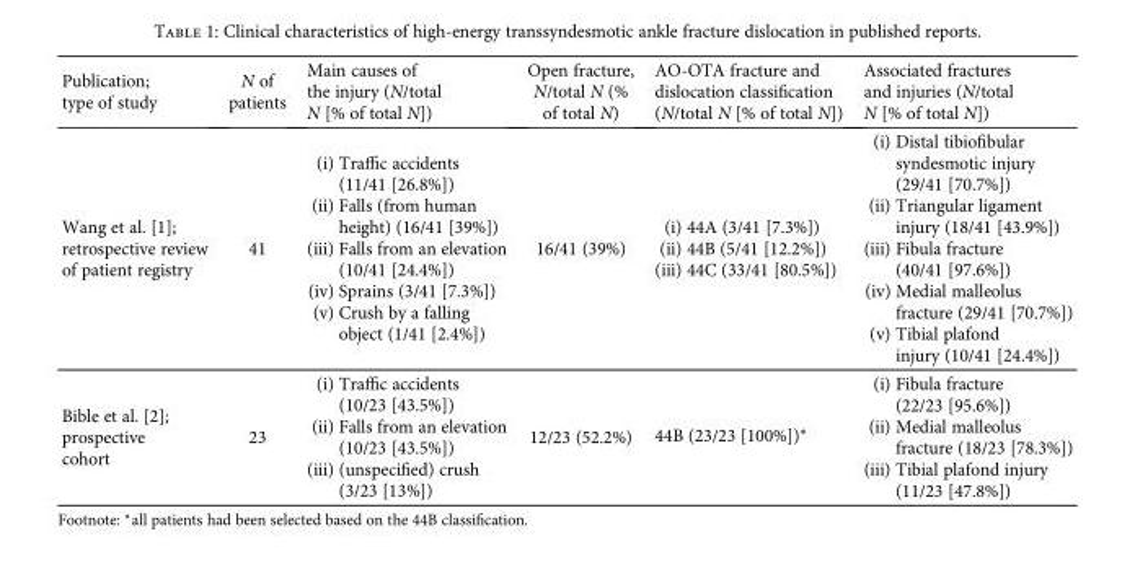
<table><thead><tr><td>Publication; type of study</td><td>N of patients</td><td>Main causes of the injury (N/total N [% of total N])</td><td>Open fracture, N/total N (% of total N)</td><td>AO-OTA fracture and dislocation classification (N/total N [% of total N])</td><td>Associated fractures and injuries (N/total N [% of total N])</td></tr></thead><tbody><tr><td>Wang et al. [1]; retrospective review of patient registry</td><td>41</td><td>(i) Traffic accidents (11/41 [26.8%]) (ii) Falls (from human height) (16/41 [39%]) (iii) Falls from an elevation (10/41 [24.4%]) (iv) Sprains (3/41 [7.3%]) (v) Crush by a falling object (1/41 [2.4%])</td><td>16/41 (39%)</td><td>(i) 44A (3/41 [7.3%]) (ii) 44B (5/41 [12.2%]) (iii) 44C (33/41 [80.5%])</td><td>(i) Distal tibiofibular syndesmotic injury (29/41 [70.7%]) (ii) Triangular ligament injury (18/41 [43.9%]) (iii) Fibula fracture (40/41 [97.6%]) (iv) Medial malleolus fracture (29/41 [70.7%]) (v) Tibial plafond injury (10/41 [24.4%])</td></tr><tr><td>Bible et al. [2]; prospective cohort</td><td>23</td><td>(i) Traffic accidents (10/23 [43.5%]) (ii) Falls from an elevation (10/23 [43.5%]) (iii) (unspecified) crush (3/23 [13%])</td><td>12/23 (52.2%)</td><td>44B (23/23 [100%])∗</td><td>(i) Fibula fracture (22/23 [95.6%]) (ii) Medial malleolus fracture (18/23 [78.3%]) (iii) Tibial plafond injury (11/23 [47.8%])</td></tr></tbody></table>